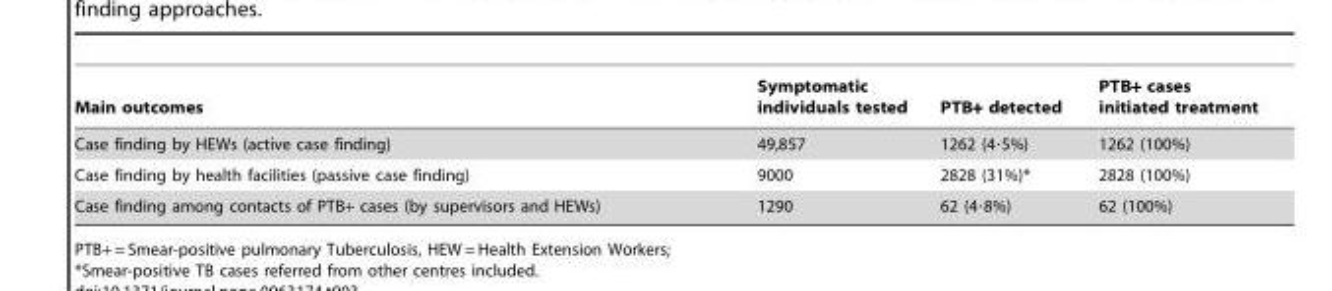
<table><thead><tr><td>Main outcomes</td><td>Symptomatic individuals tested</td><td>PTB+ detected</td><td>PTB+ cases initiated treatment</td></tr></thead><tbody><tr><td>Case finding by HEWs (active case finding)</td><td>49,857</td><td>1262 (4·5%)</td><td>1262 (100%)</td></tr><tr><td>Case finding by health facilities (passive case finding)</td><td>9000</td><td>2828 (31%)*</td><td>2828 (100%)</td></tr><tr><td>Case finding among contacts of PTB+ cases (by supervisors and HEWs)</td><td>1290</td><td>62 (4·8%)</td><td>62 (100%)</td></tr></tbody></table>